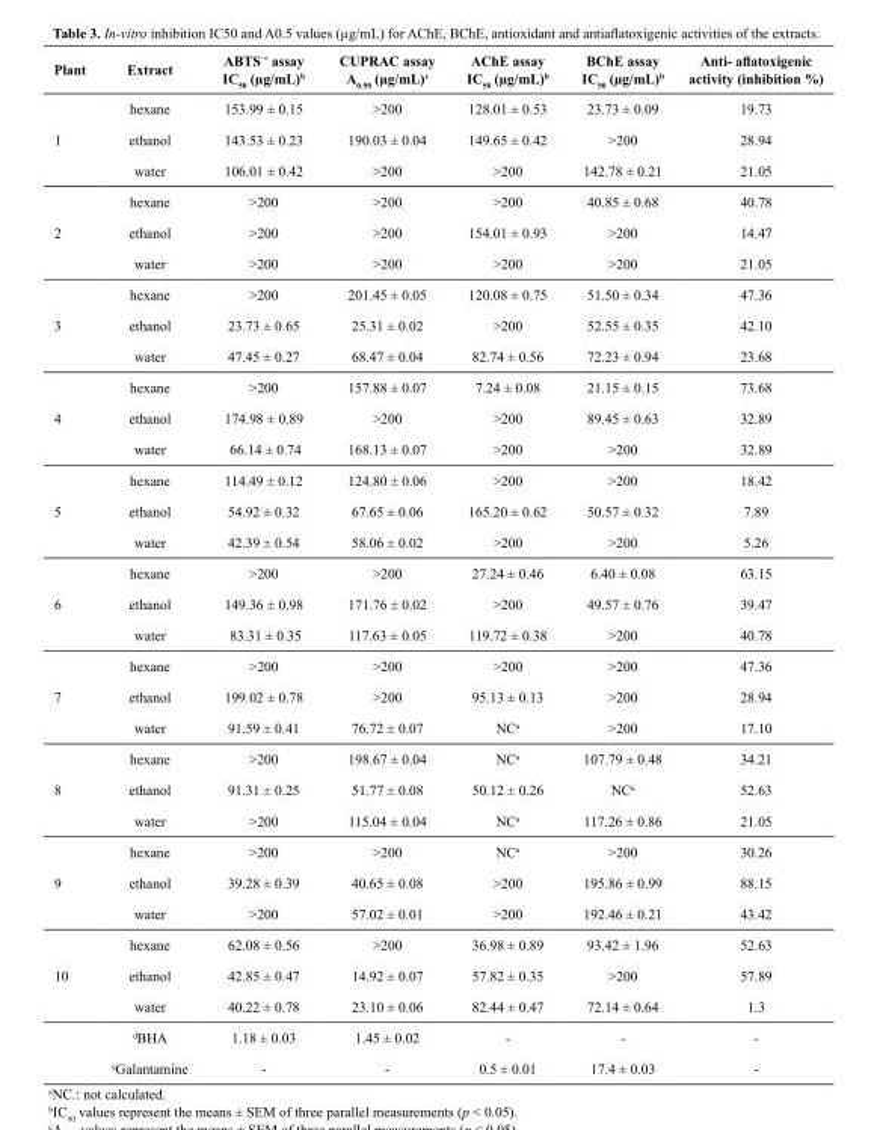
<table><thead><tr><td>Plant</td><td>Extract</td><td>ABTS<sup>·+</sup> assay IC<sub>50</sub> (µg/mL)b</td><td>CUPRAC assay A<sub>0.50</sub> (µg/mL)c</td><td>AChE assay IC<sub>50</sub> (µg/mL)b</td><td>BChE assay IC<sub>50</sub> (µg/mL)b</td><td>Anti- aflatoxigenic activity (inhibition %)</td></tr></thead><tbody><tr><td></td><td>hexane</td><td>153.99 ± 0.15</td><td>&gt;200</td><td>128.01 ± 0.53</td><td>23.73 ± 0.09</td><td>19.73</td></tr><tr><td rowspan="3">1</td><td>ethanol</td><td>143.53 ± 0.23</td><td>190.03 ± 0.04</td><td>149.65 ± 0.42</td><td>&gt;200</td><td>28.94</td></tr><tr><td>water</td><td>106.01 ± 0.42</td><td>&gt;200</td><td>&gt;200</td><td>142.78 ± 0.21</td><td>21.05</td></tr><tr><td>hexane</td><td>&gt;200</td><td>&gt;200</td><td>&gt;200</td><td>40.85 ± 0.68</td><td>40.78</td></tr><tr><td rowspan="3">2</td><td>ethanol</td><td>&gt;200</td><td>&gt;200</td><td>154.01 ± 0.93</td><td>&gt;200</td><td>14.47</td></tr><tr><td>water</td><td>&gt;200</td><td>&gt;200</td><td>&gt;200</td><td>&gt;200</td><td>21.05</td></tr><tr><td>hexane</td><td>&gt;200</td><td>201.45 ± 0.05</td><td>120.08 ± 0.75</td><td>51.50 ± 0.34</td><td>47.36</td></tr><tr><td rowspan="3">3</td><td>ethanol</td><td>23.73 ± 0.65</td><td>25.31 ± 0.02</td><td>&gt;200</td><td>52.55 ± 0.35</td><td>42.10</td></tr><tr><td>water</td><td>47.45 ± 0.27</td><td>68.47 ± 0.04</td><td>82.74 ± 0.56</td><td>72.23 ± 0.94</td><td>23.68</td></tr><tr><td>hexane</td><td>&gt;200</td><td>157.88 ± 0.07</td><td>7.24 ± 0.08</td><td>21.15 ± 0.15</td><td>73.68</td></tr><tr><td rowspan="3">4</td><td>ethanol</td><td>174.98 ± 0.89</td><td>&gt;200</td><td>&gt;200</td><td>89.45 ± 0.63</td><td>32.89</td></tr><tr><td>water</td><td>66.14 ± 0.74</td><td>168.13 ± 0.07</td><td>&gt;200</td><td>&gt;200</td><td>32.89</td></tr><tr><td>hexane</td><td>114.49 ± 0.12</td><td>124.80 ± 0.06</td><td>&gt;200</td><td>&gt;200</td><td>18.42</td></tr><tr><td rowspan="3">5</td><td>ethanol</td><td>54.92 ± 0.32</td><td>67.65 ± 0.06</td><td>165.20 ± 0.62</td><td>50.57 ± 0.32</td><td>7.89</td></tr><tr><td>water</td><td>42.39 ± 0.54</td><td>58.06 ± 0.02</td><td>&gt;200</td><td>&gt;200</td><td>5.26</td></tr><tr><td>hexane</td><td>&gt;200</td><td>&gt;200</td><td>27.24 ± 0.46</td><td>6.40 ± 0.08</td><td>63.15</td></tr><tr><td rowspan="3">6</td><td>ethanol</td><td>149.36 ± 0.98</td><td>171.76 ± 0.02</td><td>&gt;200</td><td>49.57 ± 0.76</td><td>39.47</td></tr><tr><td>water</td><td>83.31 ± 0.35</td><td>117.63 ± 0.05</td><td>119.72 ± 0.38</td><td>&gt;200</td><td>40.78</td></tr><tr><td>hexane</td><td>&gt;200</td><td>&gt;200</td><td>&gt;200</td><td>&gt;200</td><td>47.36</td></tr><tr><td rowspan="3">7</td><td>ethanol</td><td>199.02 ± 0.78</td><td>&gt;200</td><td>95.13 ± 0.13</td><td>&gt;200</td><td>28.94</td></tr><tr><td>water</td><td>91.59 ± 0.41</td><td>76.72 ± 0.07</td><td>NC<sup>a</sup></td><td>&gt;200</td><td>17.10</td></tr><tr><td>hexane</td><td>&gt;200</td><td>198.67 ± 0.04</td><td>NCa</td><td>107.79 ± 0.48</td><td>34.21</td></tr><tr><td rowspan="3">8</td><td>ethanol</td><td>91.31 ± 0.25</td><td>51.77 ± 0.08</td><td>50.12 ± 0.26</td><td>NC<sup>a</sup></td><td>52.63</td></tr><tr><td>water</td><td>&gt;200</td><td>115.04 ± 0.04</td><td>NC<sup>a</sup></td><td>117.26 ± 0.86</td><td>21.05</td></tr><tr><td>hexane</td><td>&gt;200</td><td>&gt;200</td><td>NC<sup>a</sup></td><td>&gt;200</td><td>30.26</td></tr><tr><td rowspan="3">9</td><td>ethanol</td><td>39.28 ± 0.39</td><td>40.65 ± 0.08</td><td>&gt;200</td><td>195.86 ± 0.99</td><td>88.15</td></tr><tr><td>water</td><td>&gt;200</td><td>57.02 ± 0.01</td><td>&gt;200</td><td>192.46 ± 0.21</td><td>43.42</td></tr><tr><td>hexane</td><td>62.08 ± 0.56</td><td>&gt;200</td><td>36.98 ± 0.89</td><td>93.42 ± 1.96</td><td>52.63</td></tr><tr><td rowspan="4">10</td><td>ethanol</td><td>42.85 ± 0.47</td><td>14.92 ± 0.07</td><td>57.82 ± 0.35</td><td>&gt;200</td><td>57.89</td></tr><tr><td>water</td><td>40.22 ± 0.78</td><td>23.10 ± 0.06</td><td>82.44 ± 0.47</td><td>72.14 ± 0.64</td><td>1.3</td></tr><tr><td>dBHA</td><td>1.18 ± 0.03</td><td>1.45 ± 0.02</td><td>-</td><td>-</td><td>-</td></tr><tr><td>eGalantamine</td><td>-</td><td>-</td><td>0.5 ± 0.01</td><td>17.4 ± 0.03</td><td>-</td></tr></tbody></table>